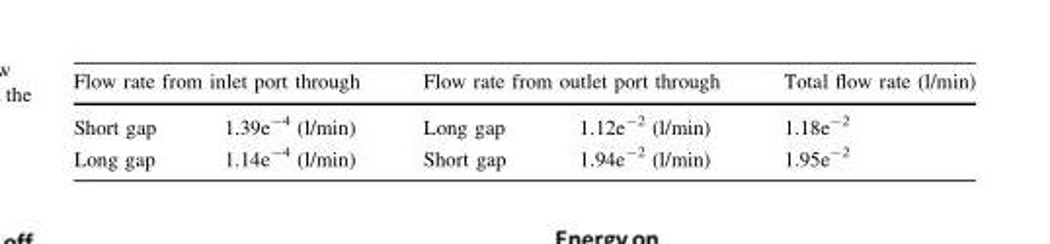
<table><thead><tr><td colspan="2">Flow rate from inlet port through</td><td colspan="2">Flow rate from outlet port through</td><td rowspan="2">Total flow rate (l/min) 1.18e<sup>-2</sup></td></tr><tr><td>Short gap</td><td>1.39e<sup>-4</sup> (l/min)</td><td>Long gap</td><td>1.12e<sup>-2</sup> (l/min)</td></tr></thead><tbody><tr><td>Long gap</td><td>1.14e<sup>-4</sup> (l/min)</td><td>Short gap</td><td>1.94e<sup>-2</sup> (l/min)</td><td>1.95e<sup>-2</sup></td></tr></tbody></table>